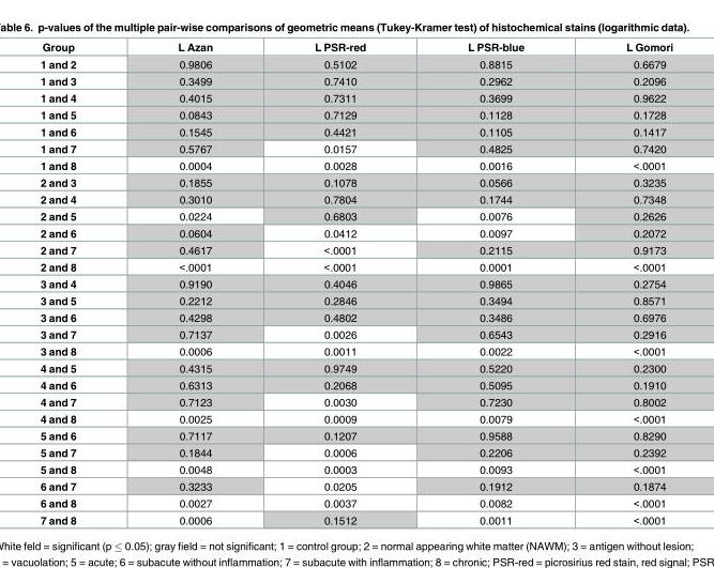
<table><thead><tr><td>Group</td><td>L Azan</td><td>L PSR-red</td><td>L PSR-blue</td><td>L Gomori</td></tr></thead><tbody><tr><td>1 and 2</td><td>0.9806</td><td>0.5102</td><td>0.8815</td><td>0.6679</td></tr><tr><td>1 and 3</td><td>0.3499</td><td>0.7410</td><td>0.2962</td><td>0.2096</td></tr><tr><td>1 and 4</td><td>0.4015</td><td>0.7311</td><td>0.3699</td><td>0.9622</td></tr><tr><td>1 and 5</td><td>0.0843</td><td>0.7129</td><td>0.1128</td><td>0.1728</td></tr><tr><td>1 and 6</td><td>0.1545</td><td>0.4421</td><td>0.1105</td><td>0.1417</td></tr><tr><td>1 and 7</td><td>0.5767</td><td>0.0157</td><td>0.4825</td><td>0.7420</td></tr><tr><td>1 and 8</td><td>0.0004</td><td>0.0028</td><td>0.0016</td><td>&lt;.0001</td></tr><tr><td>2 and 3</td><td>0.1855</td><td>0.1078</td><td>0.0566</td><td>0.3235</td></tr><tr><td>2 and 4</td><td>0.3010</td><td>0.7804</td><td>0.1744</td><td>0.7348</td></tr><tr><td>2 and 5</td><td>0.0224</td><td>0.6803</td><td>0.0076</td><td>0.2626</td></tr><tr><td>2 and 6</td><td>0.0604</td><td>0.0412</td><td>0.0097</td><td>0.2072</td></tr><tr><td>2 and 7</td><td>0.4617</td><td>&lt;.0001</td><td>0.2115</td><td>0.9173</td></tr><tr><td>2 and 8</td><td>&lt;.0001</td><td>&lt;.0001</td><td>0.0001</td><td>&lt;.0001</td></tr><tr><td>3 and 4</td><td>0.9190</td><td>0.4046</td><td>0.9865</td><td>0.2754</td></tr><tr><td>3 and 5</td><td>0.2212</td><td>0.2846</td><td>0.3494</td><td>0.8571</td></tr><tr><td>3 and 6</td><td>0.4298</td><td>0.4802</td><td>0.3486</td><td>0.6976</td></tr><tr><td>3 and 7</td><td>0.7137</td><td>0.0026</td><td>0.6543</td><td>0.2916</td></tr><tr><td>3 and 8</td><td>0.0006</td><td>0.0011</td><td>0.0022</td><td>&lt;.0001</td></tr><tr><td>4 and 5</td><td>0.4315</td><td>0.9749</td><td>0.5220</td><td>0.2300</td></tr><tr><td>4 and 6</td><td>0.6313</td><td>0.2068</td><td>0.5095</td><td>0.1910</td></tr><tr><td>4 and 7</td><td>0.7123</td><td>0.0030</td><td>0.7230</td><td>0.8002</td></tr><tr><td>4 and 8</td><td>0.0025</td><td>0.0009</td><td>0.0079</td><td>&lt;.0001</td></tr><tr><td>5 and 6</td><td>0.7117</td><td>0.1207</td><td>0.9588</td><td>0.8290</td></tr><tr><td>5 and 7</td><td>0.1844</td><td>0.0006</td><td>0.2206</td><td>0.2392</td></tr><tr><td>5 and 8</td><td>0.0048</td><td>0.0003</td><td>0.0093</td><td>&lt;.0001</td></tr><tr><td>6 and 7</td><td>0.3233</td><td>0.0205</td><td>0.1912</td><td>0.1874</td></tr><tr><td>6 and 8</td><td>0.0027</td><td>0.0037</td><td>0.0082</td><td>&lt;.0001</td></tr><tr><td>7 and 8</td><td>0.0006</td><td>0.1512</td><td>0.0011</td><td>&lt;.0001</td></tr></tbody></table>